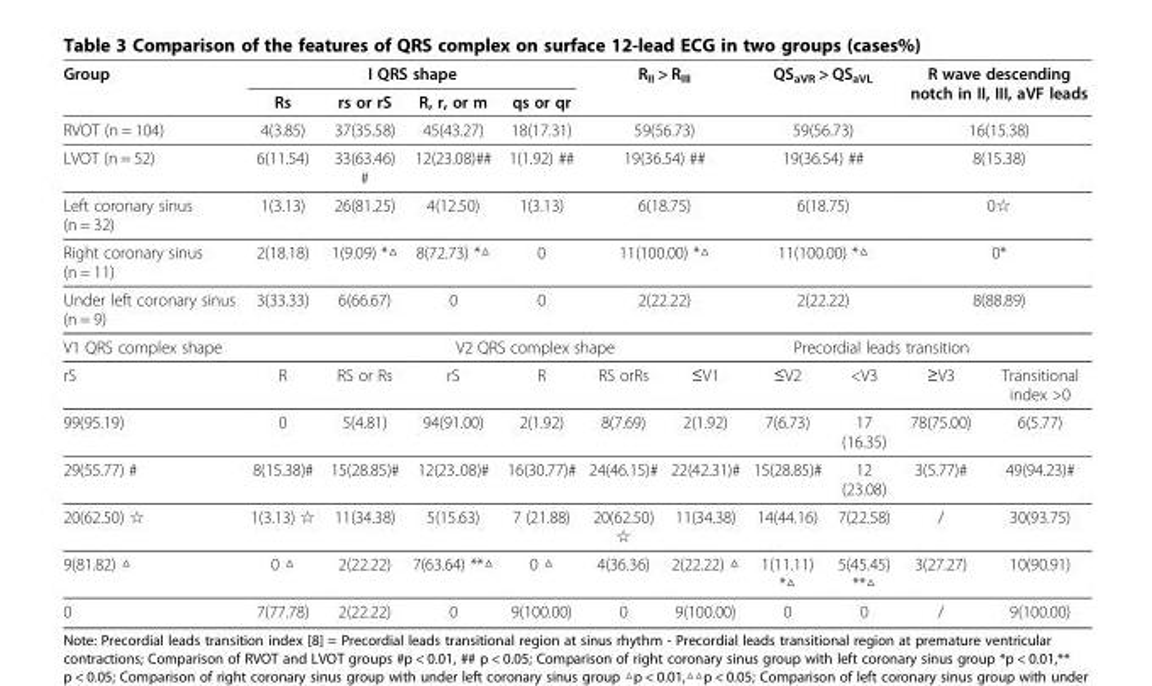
<table><thead><tr><td rowspan="2">Group</td><td colspan="4">I QRS shape</td><td colspan="2">R<sub>II</sub> &gt; R<sub>III</sub></td><td colspan="2">QS<sub>aVR</sub> &gt; QS<sub>aVL</sub></td><td rowspan="2" colspan="2">R wave descending notch in II, III, aVF leads</td></tr><tr><td>Rs</td><td>rs or rS</td><td>R, r, or m</td><td>qs or qr</td><td></td><td></td><td></td><td></td></tr></thead><tbody><tr><td>RVOT (n = 104)</td><td>4(3.85)</td><td>37(35.58)</td><td>45(43.27)</td><td>18(17.31)</td><td colspan="2">59(56.73)</td><td colspan="2">59(56.73)</td><td colspan="2">16(15.38)</td></tr><tr><td>LVOT (n = 52)</td><td>6(11.54)</td><td>33(63.46) #</td><td>12(23.08)##</td><td>1(1.92) ##</td><td colspan="2">19(36.54) ##</td><td colspan="2">19(36.54) ##</td><td colspan="2">8(15.38)</td></tr><tr><td>Left coronary sinus (n = 32)</td><td>1(3.13)</td><td>26(81.25)</td><td>4(12.50)</td><td>1(3.13)</td><td colspan="2">6(18.75)</td><td colspan="2">6(18.75)</td><td colspan="2">0☆</td></tr><tr><td>Right coronary sinus (n = 11)</td><td>2(18.18)</td><td>1(9.09) *△</td><td>8(72.73) *△</td><td>0</td><td colspan="2">11(100.00) *△</td><td colspan="2">11(100.00) *△</td><td colspan="2">0*</td></tr><tr><td>Under left coronary sinus (n = 9)</td><td>3(33.33)</td><td>6(66.67)</td><td>0</td><td>0</td><td colspan="2">2(22.22)</td><td colspan="2">2(22.22)</td><td colspan="2">8(88.89)</td></tr><tr><td colspan="3">V1 QRS complex shape</td><td colspan="3">V2 QRS complex shape</td><td colspan="5">Precordial leads transition</td></tr><tr><td>rS</td><td>R</td><td>RS or Rs</td><td>rS</td><td>R</td><td>RS orRs</td><td>≤V1</td><td>≤V2</td><td>&lt;V3</td><td>≥V3</td><td>Transitional index &gt;0</td></tr><tr><td>99(95.19)</td><td>0</td><td>5(4.81)</td><td>94(91.00)</td><td>2(1.92)</td><td>8(7.69)</td><td>2(1.92)</td><td>7(6.73)</td><td>17 (16.35)</td><td>78(75.00)</td><td>6(5.77)</td></tr><tr><td>29(55.77) #</td><td>8(15.38)#</td><td>15(28.85)#</td><td>12(23..08)#</td><td>16(30.77)#</td><td>24(46.15)#</td><td>22(42.31)#</td><td>15(28.85)#</td><td>12 (23.08)</td><td>3(5.77)#</td><td>49(94.23)#</td></tr><tr><td>20(62.50) ☆</td><td>1(3.13) ☆</td><td>11(34.38)</td><td>5(15.63)</td><td>7 (21.88)</td><td>20(62.50) ☆</td><td>11(34.38)</td><td>14(44.16)</td><td>7(22.58)</td><td>/</td><td>30(93.75)</td></tr><tr><td>9(81.82) △</td><td>0 △</td><td>2(22.22)</td><td>7(63.64) **△</td><td>0 △</td><td>4(36.36)</td><td>2(22.22) △</td><td>1(11.11) *△</td><td>5(45.45) **△</td><td>3(27.27)</td><td>10(90.91)</td></tr><tr><td>0</td><td>7(77.78)</td><td>2(22.22)</td><td>0</td><td>9(100.00)</td><td>0</td><td>9(100.00)</td><td>0</td><td>0</td><td>/</td><td>9(100.00)</td></tr></tbody></table>